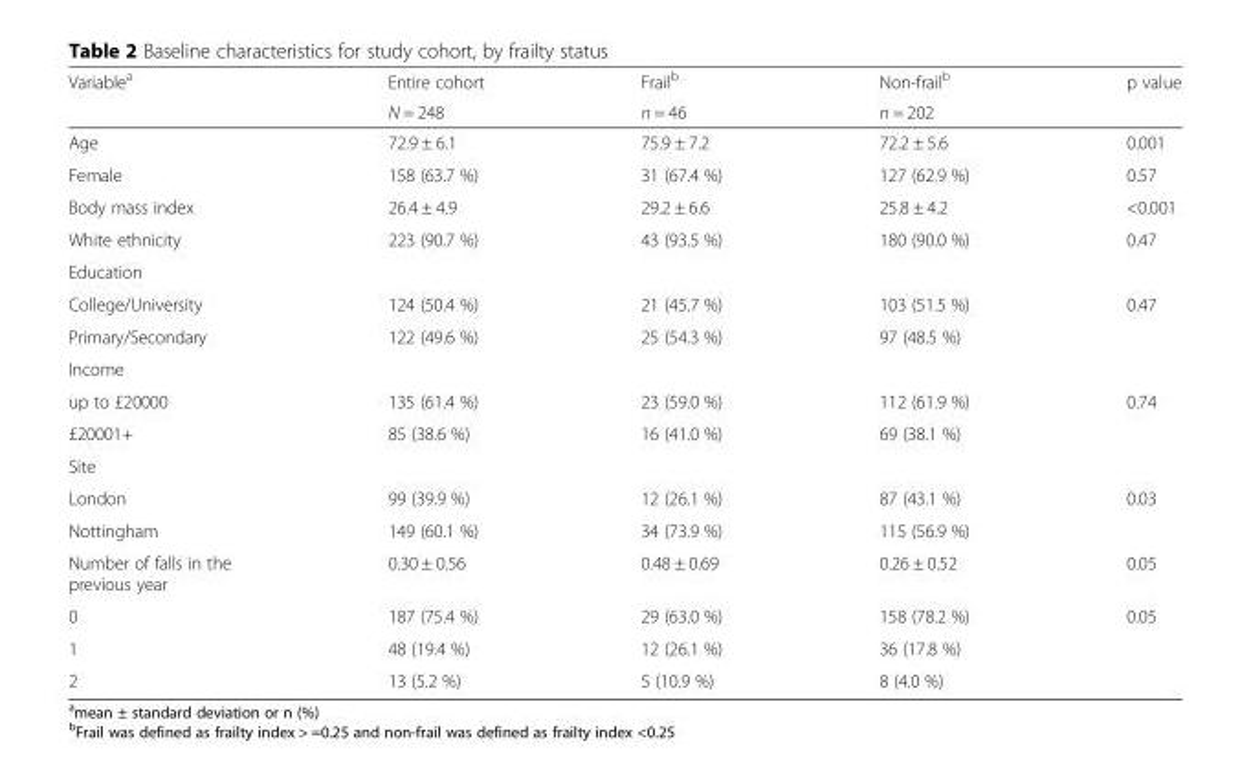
<table><thead><tr><td rowspan="2">Variable<sup>a</sup></td><td rowspan="2">Entire cohort N = 248</td><td rowspan="2">Frail<sup>b</sup> n = 46</td><td rowspan="2">Non-frail<sup>b</sup> n = 202</td><td rowspan="2">p value</td></tr><tr></tr></thead><tbody><tr><td>Age</td><td>72.9 ± 6.1</td><td>75.9 ± 7.2</td><td>72.2 ± 5.6</td><td>0.001</td></tr><tr><td>Female</td><td>158 (63.7 %)</td><td>31 (67.4 %)</td><td>127 (62.9 %)</td><td>0.57</td></tr><tr><td>Body mass index</td><td>26.4 ± 4.9</td><td>29.2 ± 6.6</td><td>25.8 ± 4.2</td><td>&lt;0.001</td></tr><tr><td>White ethnicity</td><td>223 (90.7 %)</td><td>43 (93.5 %)</td><td>180 (90.0 %)</td><td>0.47</td></tr><tr><td colspan="5">Education</td></tr><tr><td>College/University</td><td>124 (50.4 %)</td><td>21 (45.7 %)</td><td>103 (51.5 %)</td><td>0.47</td></tr><tr><td>Primary/Secondary</td><td>122 (49.6 %)</td><td>25 (54.3 %)</td><td>97 (48.5 %)</td><td></td></tr><tr><td colspan="5">Income</td></tr><tr><td>up to £20000</td><td>135 (61.4 %)</td><td>23 (59.0 %)</td><td>112 (61.9 %)</td><td>0.74</td></tr><tr><td>£20001+</td><td>85 (38.6 %)</td><td>16 (41.0 %)</td><td>69 (38.1 %)</td><td></td></tr><tr><td colspan="5">Site</td></tr><tr><td>London</td><td>99 (39.9 %)</td><td>12 (26.1 %)</td><td>87 (43.1 %)</td><td>0.03</td></tr><tr><td>Nottingham</td><td>149 (60.1 %)</td><td>34 (73.9 %)</td><td>115 (56.9 %)</td><td></td></tr><tr><td>Number of falls in the previous year</td><td>0.30 ± 0.56</td><td>0.48 ± 0.69</td><td>0.26 ± 0.52</td><td>0.05</td></tr><tr><td>0</td><td>187 (75.4 %)</td><td>29 (63.0 %)</td><td>158 (78.2 %)</td><td>0.05</td></tr><tr><td>1</td><td>48 (19.4 %)</td><td>12 (26.1 %)</td><td>36 (17.8 %)</td><td></td></tr><tr><td>2</td><td>13 (5.2 %)</td><td>5 (10.9 %)</td><td>8 (4.0 %)</td><td></td></tr></tbody></table>